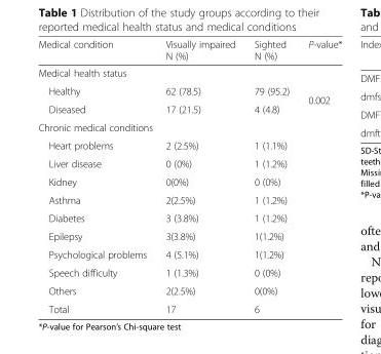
<table><thead><tr><td>Medical condition</td><td>Visually impaired N (%)</td><td>Sighted N (%)</td><td>P-value*</td></tr></thead><tbody><tr><td colspan="4">Medical health status</td></tr><tr><td>Healthy</td><td>62 (78.5)</td><td>79 (95.2)</td><td rowspan="2">0.002</td></tr><tr><td>Diseased</td><td>17 (21.5)</td><td>4 (4.8)</td></tr><tr><td colspan="4">Chronic medical conditions</td></tr><tr><td>Heart problems</td><td>2 (2.5%)</td><td>1 (1.1%)</td><td rowspan="10"></td></tr><tr><td>Liver disease</td><td>0 (0%)</td><td>1 (1.2%)</td></tr><tr><td>Kidney</td><td>0(0%)</td><td>0 (0%)</td></tr><tr><td>Asthma</td><td>2(2.5%)</td><td>1 (1.2%)</td></tr><tr><td>Diabetes</td><td>3 (3.8%)</td><td>1 (1.2%)</td></tr><tr><td>Epilepsy</td><td>3(3.8%)</td><td>1(1.2%)</td></tr><tr><td>Psychological problems</td><td>4 (5.1%)</td><td>1(1.2%)</td></tr><tr><td>Speech difficulty</td><td>1 (1.3%)</td><td>0 (0%)</td></tr><tr><td>Others</td><td>2(2.5%)</td><td>0(0%)</td></tr><tr><td>Total</td><td>17</td><td>6</td></tr></tbody></table>